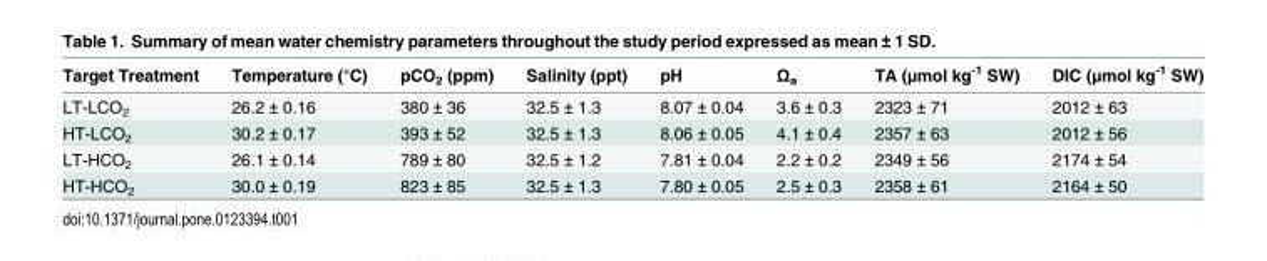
<table><thead><tr><td>Target Treatment</td><td>Temperature (°C)</td><td>pCO<sub>2</sub> (ppm)</td><td>Salinity (ppt)</td><td>pH</td><td>Ω<sub>a</sub></td><td>TA (μmol kg<sup>-1</sup> SW)</td><td>DIC (μmol kg<sup>-1</sup> SW)</td></tr></thead><tbody><tr><td>LT-LCO<sub>2</sub></td><td>26.2 ± 0.16</td><td>380 ± 36</td><td>32.5 ± 1.3</td><td>8.07 ± 0.04</td><td>3.6 ± 0.3</td><td>2323 ± 71</td><td>2012 ± 63</td></tr><tr><td>HT-LCO<sub>2</sub></td><td>30.2 ± 0.17</td><td>393 ± 52</td><td>32.5 ± 1.3</td><td>8.06 ± 0.05</td><td>4.1 ± 0.4</td><td>2357 ± 63</td><td>2012 ± 56</td></tr><tr><td>LT-HCO<sub>2</sub></td><td>26.1 ± 0.14</td><td>789 ± 80</td><td>32.5 ± 1.2</td><td>7.81 ± 0.04</td><td>2.2 ± 0.2</td><td>2349 ± 56</td><td>2174 ± 54</td></tr><tr><td>HT-HCO<sub>2</sub></td><td>30.0 ± 0.19</td><td>823 ± 85</td><td>32.5 ± 1.3</td><td>7.80 ± 0.05</td><td>2.5 ± 0.3</td><td>2358 ± 61</td><td>2164 ± 50</td></tr></tbody></table>